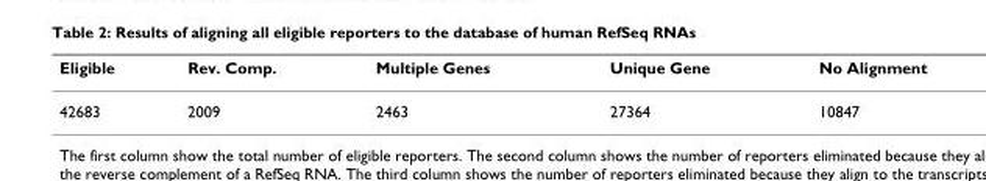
<table><thead><tr><td>Eligible</td><td>Rev. Comp.</td><td>Multiple Genes</td><td>Unique Gene</td><td>No Alignment</td></tr></thead><tbody><tr><td>42683</td><td>2009</td><td>2463</td><td>27364</td><td>10847</td></tr></tbody></table>